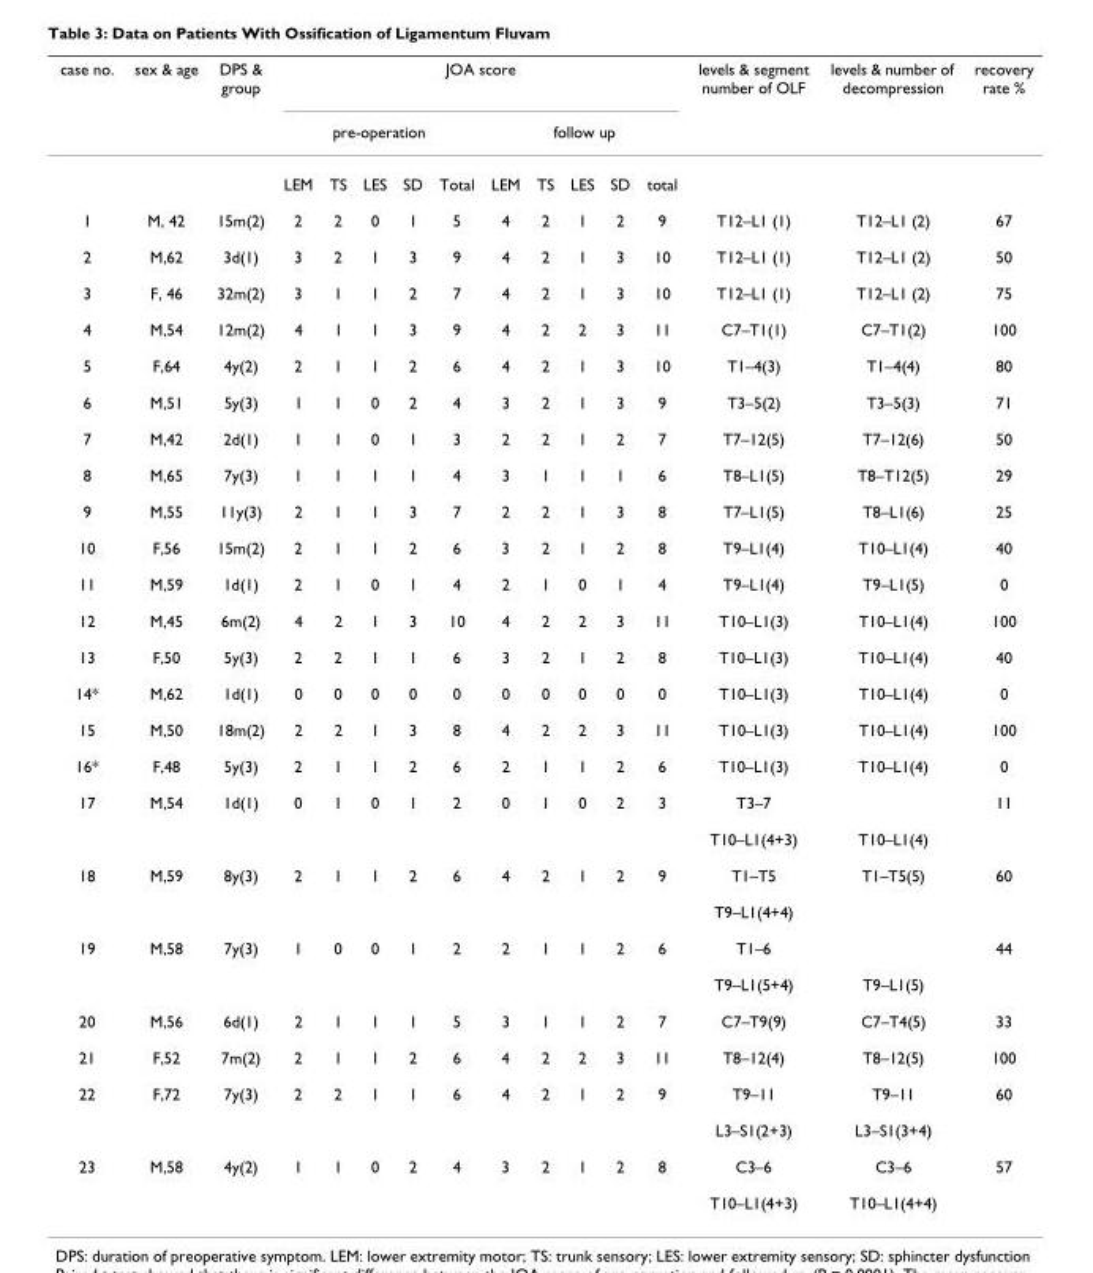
<table><thead><tr><td rowspan="3">case no.</td><td rowspan="3">sex &amp; age</td><td rowspan="3">DPS &amp; group</td><td colspan="10">JOA score</td><td rowspan="3">levels &amp; segment number of OLF</td><td rowspan="3">levels &amp; number of decompression</td><td rowspan="3">recovery rate %</td></tr><tr><td colspan="5">pre-operation</td><td colspan="5">follow up</td></tr><tr><td>LEM</td><td>TS</td><td>LES</td><td>SD</td><td>Total</td><td>LEM</td><td>TS</td><td>LES</td><td>SD</td><td>total</td></tr></thead><tbody><tr><td>1</td><td>M, 42</td><td>15m(2)</td><td>2</td><td>2</td><td>0</td><td>1</td><td>5</td><td>4</td><td>2</td><td>1</td><td>2</td><td>9</td><td>T12–L1 (1)</td><td>T12–L1 (2)</td><td>67</td></tr><tr><td>2</td><td>M,62</td><td>3d(1)</td><td>3</td><td>2</td><td>1</td><td>3</td><td>9</td><td>4</td><td>2</td><td>1</td><td>3</td><td>10</td><td>T12–L1 (1)</td><td>T12–L1 (2)</td><td>50</td></tr><tr><td>3</td><td>F, 46</td><td>32m(2)</td><td>3</td><td>1</td><td>1</td><td>2</td><td>7</td><td>4</td><td>2</td><td>1</td><td>3</td><td>10</td><td>T12–L1 (1)</td><td>T12–L1 (2)</td><td>75</td></tr><tr><td>4</td><td>M,54</td><td>12m(2)</td><td>4</td><td>1</td><td>1</td><td>3</td><td>9</td><td>4</td><td>2</td><td>2</td><td>3</td><td>11</td><td>C7–T1(1)</td><td>C7–T1(2)</td><td>100</td></tr><tr><td>5</td><td>F,64</td><td>4y(2)</td><td>2</td><td>1</td><td>1</td><td>2</td><td>6</td><td>4</td><td>2</td><td>1</td><td>3</td><td>10</td><td>T1–4(3)</td><td>T1–4(4)</td><td>80</td></tr><tr><td>6</td><td>M,51</td><td>5y(3)</td><td>1</td><td>1</td><td>0</td><td>2</td><td>4</td><td>3</td><td>2</td><td>1</td><td>3</td><td>9</td><td>T3–5(2)</td><td>T3–5(3)</td><td>71</td></tr><tr><td>7</td><td>M,42</td><td>2d(1)</td><td>1</td><td>1</td><td>0</td><td>1</td><td>3</td><td>2</td><td>2</td><td>1</td><td>2</td><td>7</td><td>T7–12(5)</td><td>T7–12(6)</td><td>50</td></tr><tr><td>8</td><td>M,65</td><td>7y(3)</td><td>1</td><td>1</td><td>1</td><td>1</td><td>4</td><td>3</td><td>1</td><td>1</td><td>1</td><td>6</td><td>T8–L1(5)</td><td>T8–T12(5)</td><td>29</td></tr><tr><td>9</td><td>M,55</td><td>11y(3)</td><td>2</td><td>1</td><td>1</td><td>3</td><td>7</td><td>2</td><td>2</td><td>1</td><td>3</td><td>8</td><td>T7–L1(5)</td><td>T8–L1(6)</td><td>25</td></tr><tr><td>10</td><td>F,56</td><td>15m(2)</td><td>2</td><td>1</td><td>1</td><td>2</td><td>6</td><td>3</td><td>2</td><td>1</td><td>2</td><td>8</td><td>T9–L1(4)</td><td>T10–L1(4)</td><td>40</td></tr><tr><td>11</td><td>M,59</td><td>1d(1)</td><td>2</td><td>1</td><td>0</td><td>1</td><td>4</td><td>2</td><td>1</td><td>0</td><td>1</td><td>4</td><td>T9–L1(4)</td><td>T9–L1(5)</td><td>0</td></tr><tr><td>12</td><td>M,45</td><td>6m(2)</td><td>4</td><td>2</td><td>1</td><td>3</td><td>10</td><td>4</td><td>2</td><td>2</td><td>3</td><td>11</td><td>T10–L1(3)</td><td>T10–L1(4)</td><td>100</td></tr><tr><td>13</td><td>F,50</td><td>5y(3)</td><td>2</td><td>2</td><td>1</td><td>1</td><td>6</td><td>3</td><td>2</td><td>1</td><td>2</td><td>8</td><td>T10–L1(3)</td><td>T10–L1(4)</td><td>40</td></tr><tr><td>14*</td><td>M,62</td><td>1d(1)</td><td>0</td><td>0</td><td>0</td><td>0</td><td>0</td><td>0</td><td>0</td><td>0</td><td>0</td><td>0</td><td>T10–L1(3)</td><td>T10–L1(4)</td><td>0</td></tr><tr><td>15</td><td>M,50</td><td>18m(2)</td><td>2</td><td>2</td><td>1</td><td>3</td><td>8</td><td>4</td><td>2</td><td>2</td><td>3</td><td>11</td><td>T10–L1(3)</td><td>T10–L1(4)</td><td>100</td></tr><tr><td>16*</td><td>F,48</td><td>5y(3)</td><td>2</td><td>1</td><td>1</td><td>2</td><td>6</td><td>2</td><td>1</td><td>1</td><td>2</td><td>6</td><td>T10–L1(3)</td><td>T10–L1(4)</td><td>0</td></tr><tr><td rowspan="2">17</td><td>M,54</td><td>1d(1)</td><td>0</td><td>1</td><td>0</td><td>1</td><td>2</td><td>0</td><td>1</td><td>0</td><td>2</td><td>3</td><td>T3–7</td><td></td><td>11</td></tr><tr><td></td><td></td><td></td><td></td><td></td><td></td><td></td><td></td><td></td><td></td><td></td><td></td><td>T10–L1(4+3)</td><td>T10–L1(4)</td><td></td></tr><tr><td rowspan="2">18</td><td>M,59</td><td>8y(3)</td><td>2</td><td>1</td><td>1</td><td>2</td><td>6</td><td>4</td><td>2</td><td>1</td><td>2</td><td>9</td><td>T1–T5</td><td>T1–T5(5)</td><td>60</td></tr><tr><td></td><td></td><td></td><td></td><td></td><td></td><td></td><td></td><td></td><td></td><td></td><td></td><td>T9–L1(4+4)</td><td></td><td></td></tr><tr><td rowspan="2">19</td><td>M,58</td><td>7y(3)</td><td>1</td><td>0</td><td>0</td><td>1</td><td>2</td><td>2</td><td>1</td><td>1</td><td>2</td><td>6</td><td>T1–6</td><td></td><td>44</td></tr><tr><td></td><td></td><td></td><td></td><td></td><td></td><td></td><td></td><td></td><td></td><td></td><td></td><td>T9–L1(5+4)</td><td>T9–L1(5)</td><td></td></tr><tr><td>20</td><td>M,56</td><td>6d(1)</td><td>2</td><td>1</td><td>1</td><td>1</td><td>5</td><td>3</td><td>1</td><td>1</td><td>2</td><td>7</td><td>C7–T9(9)</td><td>C7–T4(5)</td><td>33</td></tr><tr><td>21</td><td>F,52</td><td>7m(2)</td><td>2</td><td>1</td><td>1</td><td>2</td><td>6</td><td>4</td><td>2</td><td>2</td><td>3</td><td>11</td><td>T8–12(4)</td><td>T8–12(5)</td><td>100</td></tr><tr><td rowspan="2">22</td><td>F,72</td><td>7y(3)</td><td>2</td><td>2</td><td>1</td><td>1</td><td>6</td><td>4</td><td>2</td><td>1</td><td>2</td><td>9</td><td>T9–11</td><td>T9–11</td><td>60</td></tr><tr><td></td><td></td><td></td><td></td><td></td><td></td><td></td><td></td><td></td><td></td><td></td><td></td><td>L3–S1(2+3)</td><td>L3–S1(3+4)</td><td></td></tr><tr><td rowspan="2">23</td><td>M,58</td><td>4y(2)</td><td>1</td><td>1</td><td>0</td><td>2</td><td>4</td><td>3</td><td>2</td><td>1</td><td>2</td><td>8</td><td>C3–6</td><td>C3–6</td><td>57</td></tr><tr><td></td><td></td><td></td><td></td><td></td><td></td><td></td><td></td><td></td><td></td><td></td><td></td><td>T10–L1(4+3)</td><td>T10–L1(4+4)</td><td></td></tr></tbody></table>